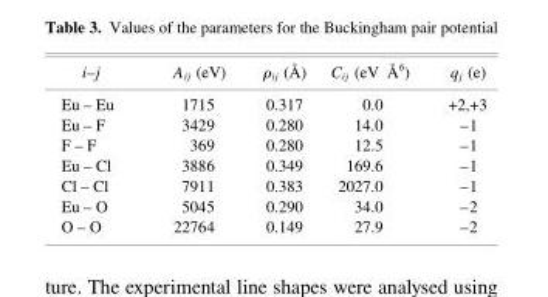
<table><thead><tr><td>i–j</td><td>A<sub>ij</sub> (eV)</td><td>ρ<sub>ij</sub> (Å)</td><td>C<sub>ij</sub> (eV Å<sup>6</sup>)</td><td>q<sub>j</sub> (e)</td></tr></thead><tbody><tr><td>Eu – Eu</td><td>1715</td><td>0.317</td><td>0.0</td><td>+2,+3</td></tr><tr><td>Eu – F</td><td>3429</td><td>0.280</td><td>14.0</td><td>–1</td></tr><tr><td>F – F</td><td>369</td><td>0.280</td><td>12.5</td><td>–1</td></tr><tr><td>Eu – Cl</td><td>3886</td><td>0.349</td><td>169.6</td><td>–1</td></tr><tr><td>Cl – Cl</td><td>7911</td><td>0.383</td><td>2027.0</td><td>–1</td></tr><tr><td>Eu – O</td><td>5045</td><td>0.290</td><td>34.0</td><td>–2</td></tr><tr><td>O – O</td><td>22764</td><td>0.149</td><td>27.9</td><td>–2</td></tr></tbody></table>